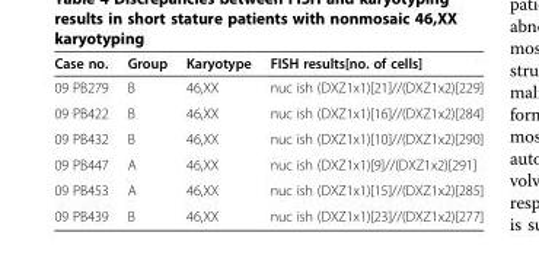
<table><thead><tr><td>Case no.</td><td>Group</td><td>Karyotype</td><td>FISH results[no. of cells]</td></tr></thead><tbody><tr><td>09 PB279</td><td>B</td><td>46,XX</td><td>nuc ish (DXZ1x1)[21]//(DXZ1x2)[229]</td></tr><tr><td>09 PB422</td><td>B</td><td>46,XX</td><td>nuc ish (DXZ1x1)[16]//(DXZ1x2)[284]</td></tr><tr><td>09 PB432</td><td>B</td><td>46,XX</td><td>nuc ish (DXZ1x1)[10]//(DXZ1x2)[290]</td></tr><tr><td>09 PB447</td><td>A</td><td>46,XX</td><td>nuc ish (DXZ1x1)[9]//(DXZ1x2)[291]</td></tr><tr><td>09 PB453</td><td>A</td><td>46,XX</td><td>nuc ish (DXZ1x1)[15]//(DXZ1x2)[285]</td></tr><tr><td>09 PB439</td><td>B</td><td>46,XX</td><td>nuc ish (DXZ1x1)[23]//(DXZ1x2)[277]</td></tr></tbody></table>